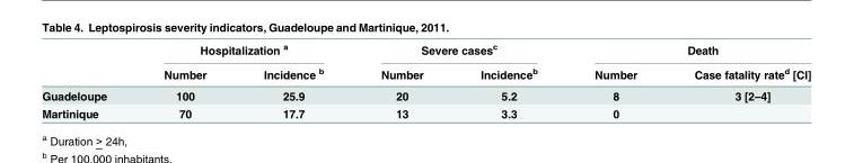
<table><thead><tr><td rowspan="2"></td><td colspan="2">Hospitalization <sup>a</sup></td><td colspan="2">Severe cases<sup>c</sup></td><td colspan="2">Death</td></tr><tr><td>Number</td><td>Incidence <sup>b</sup></td><td>Number</td><td>Incidence<sup>b</sup></td><td>Number</td><td>Case fatality rate<sup>d</sup> [CI]</td></tr></thead><tbody><tr><td>Guadeloupe</td><td>100</td><td>25.9</td><td>20</td><td>5.2</td><td>8</td><td>3 [2–4]</td></tr><tr><td>Martinique</td><td>70</td><td>17.7</td><td>13</td><td>3.3</td><td>0</td><td></td></tr></tbody></table>